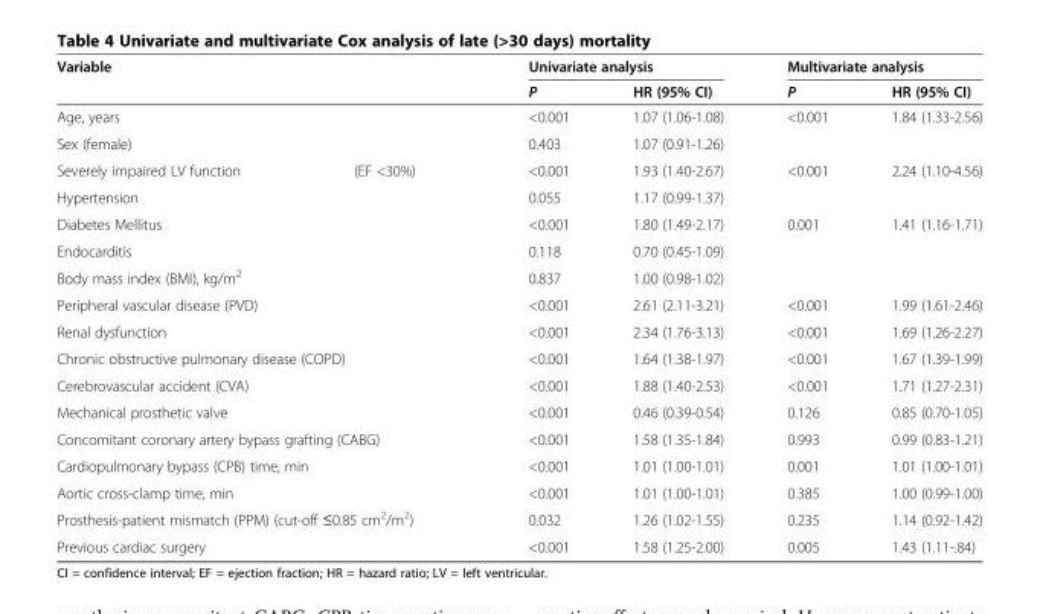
<table><thead><tr><td rowspan="4" colspan="2">Variable Age, years Sex (female)</td><td colspan="2">Univariate analysis</td><td colspan="2">Multivariate analysis</td></tr><tr><td rowspan="4">P &lt;0.001 0.403 &lt;0.001</td><td rowspan="4">HR (95% CI) 1.07 (1.06-1.08) 1.07 (0.91-1.26) 1.93 (1.40-2.67)</td><td rowspan="4">P &lt;0.001 &lt;0.001</td><td rowspan="4">HR (95% CI) 1.84 (1.33-2.56) 2.24 (1.10-4.56)</td></tr><tr></tr><tr></tr><tr><td>Severely impaired LV function</td><td>(EF &lt;30%)</td></tr></thead><tbody><tr><td colspan="2">Hypertension</td><td>0.055</td><td>1.17 (0.99-1.37)</td><td></td><td></td></tr><tr><td colspan="2">Diabetes Mellitus</td><td>&lt;0.001</td><td>1.80 (1.49-2.17)</td><td>0.001</td><td>1.41 (1.16-1.71)</td></tr><tr><td colspan="2">Endocarditis</td><td>0.118</td><td>0.70 (0.45-1.09)</td><td></td><td></td></tr><tr><td colspan="2">Body mass index (BMI), kg/m<sup>2</sup></td><td>0.837</td><td>1.00 (0.98-1.02)</td><td></td><td></td></tr><tr><td colspan="2">Peripheral vascular disease (PVD)</td><td>&lt;0.001</td><td>2.61 (2.11-3.21)</td><td>&lt;0.001</td><td>1.99 (1.61-2.46)</td></tr><tr><td colspan="2">Renal dysfunction</td><td>&lt;0.001</td><td>2.34 (1.76-3.13)</td><td>&lt;0.001</td><td>1.69 (1.26-2.27)</td></tr><tr><td colspan="2">Chronic obstructive pulmonary disease (COPD)</td><td>&lt;0.001</td><td>1.64 (1.38-1.97)</td><td>&lt;0.001</td><td>1.67 (1.39-1.99)</td></tr><tr><td colspan="2">Cerebrovascular accident (CVA)</td><td>&lt;0.001</td><td>1.88 (1.40-2.53)</td><td>&lt;0.001</td><td>1.71 (1.27-2.31)</td></tr><tr><td colspan="2">Mechanical prosthetic valve</td><td>&lt;0.001</td><td>0.46 (0.39-0.54)</td><td>0.126</td><td>0.85 (0.70-1.05)</td></tr><tr><td colspan="2">Concomitant coronary artery bypass grafting (CABG)</td><td>&lt;0.001</td><td>1.58 (1.35-1.84)</td><td>0.993</td><td>0.99 (0.83-1.21)</td></tr><tr><td colspan="2">Cardiopulmonary bypass (CPB) time, min</td><td>&lt;0.001</td><td>1.01 (1.00-1.01)</td><td>0.001</td><td>1.01 (1.00-1.01)</td></tr><tr><td colspan="2">Aortic cross-clamp time, min</td><td>&lt;0.001</td><td>1.01 (1.00-1.01)</td><td>0.385</td><td>1.00 (0.99-1.00)</td></tr><tr><td colspan="2">Prosthesis-patient mismatch (PPM) (cut-off ≤0.85 cm<sup>2</sup>/m<sup>2</sup>)</td><td>0.032</td><td>1.26 (1.02-1.55)</td><td>0.235</td><td>1.14 (0.92-1.42)</td></tr><tr><td colspan="2">Previous cardiac surgery</td><td>&lt;0.001</td><td>1.58 (1.25-2.00)</td><td>0.005</td><td>1.43 (1.11-.84)</td></tr></tbody></table>